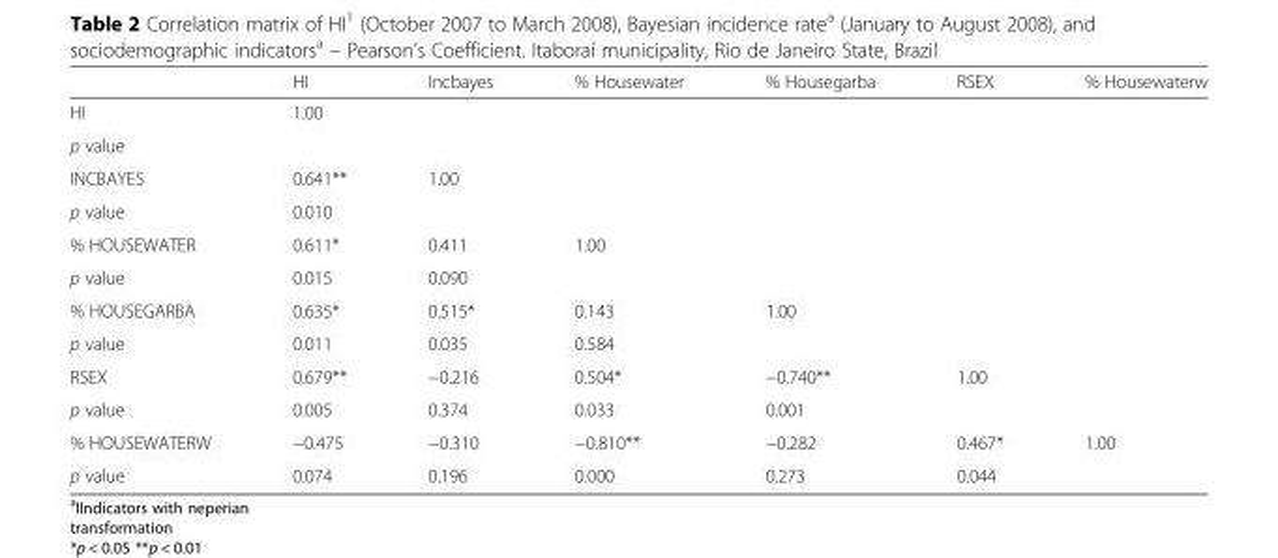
<table><thead><tr><td></td><td>HI</td><td>Incbayes</td><td>% Housewater</td><td>% Housegarba</td><td>RSEX</td><td>% Housewaterw</td></tr></thead><tbody><tr><td>HI</td><td>1.00</td><td></td><td></td><td></td><td></td><td></td></tr><tr><td colspan="7">p value</td></tr><tr><td>INCBAYES</td><td>0.641**</td><td>1.00</td><td></td><td></td><td></td><td></td></tr><tr><td>p value</td><td>0.010</td><td></td><td></td><td></td><td></td><td></td></tr><tr><td>% HOUSEWATER</td><td>0.611*</td><td>0.411</td><td>1.00</td><td></td><td></td><td></td></tr><tr><td>p value</td><td>0.015</td><td>0.090</td><td></td><td></td><td></td><td></td></tr><tr><td>% HOUSEGARBA</td><td>0.635*</td><td>0.515*</td><td>0.143</td><td>1.00</td><td></td><td></td></tr><tr><td>p value</td><td>0.011</td><td>0.035</td><td>0.584</td><td></td><td></td><td></td></tr><tr><td>RSEX</td><td>0.679**</td><td>−0.216</td><td>0.504*</td><td>−0.740**</td><td>1.00</td><td></td></tr><tr><td>p value</td><td>0.005</td><td>0.374</td><td>0.033</td><td>0.001</td><td></td><td></td></tr><tr><td>% HOUSEWATERW</td><td>−0.475</td><td>−0.310</td><td>−0.810**</td><td>−0.282</td><td>0.467*</td><td>1.00</td></tr><tr><td>p value</td><td>0.074</td><td>0.196</td><td>0.000</td><td>0.273</td><td>0.044</td><td></td></tr></tbody></table>